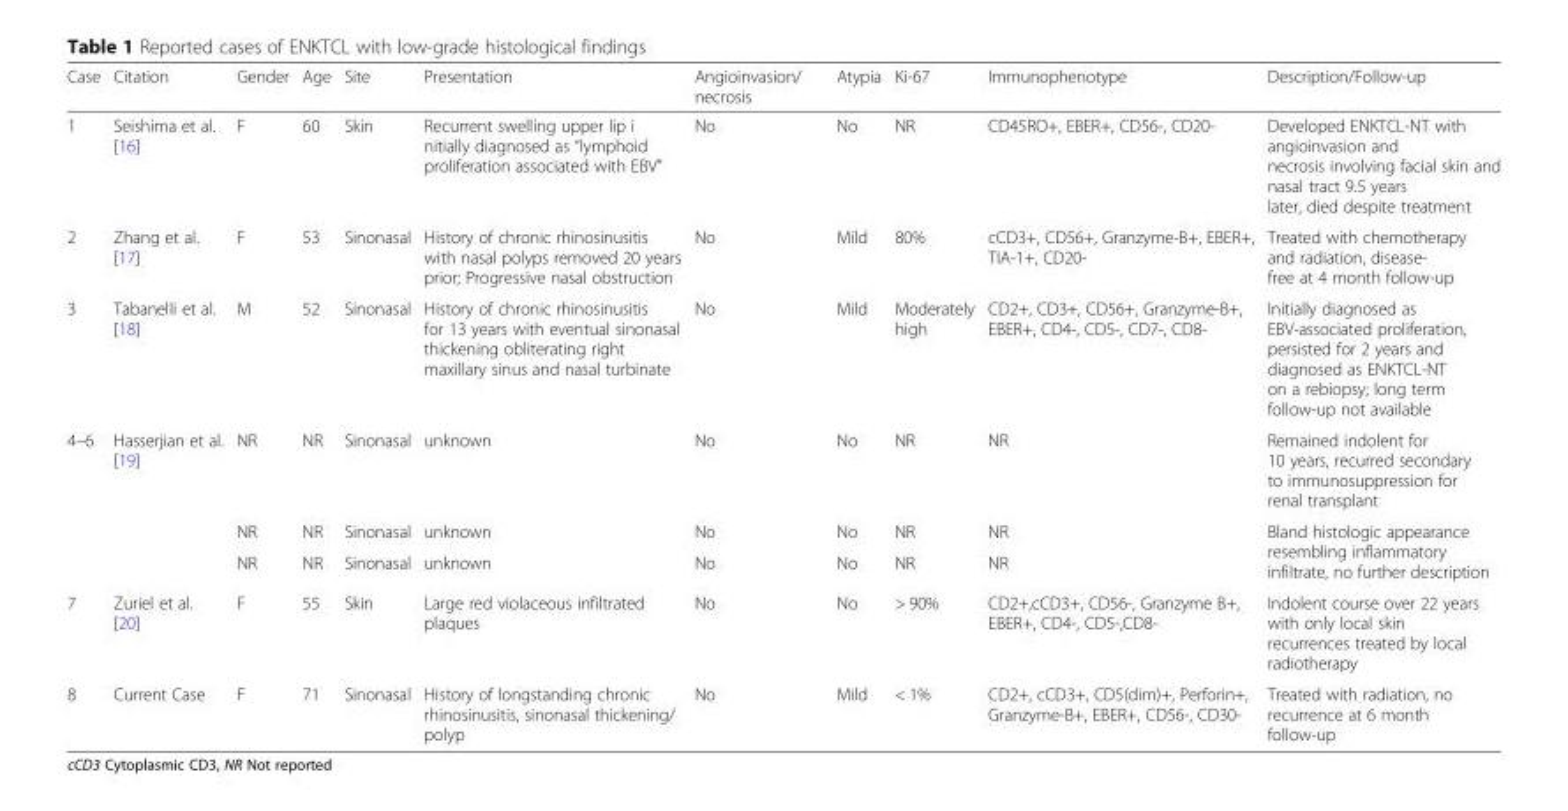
<table><thead><tr><td>Case</td><td>Citation</td><td>Gender</td><td>Age</td><td>Site</td><td>Presentation</td><td>Angioinvasion/ necrosis</td><td>Atypia</td><td>Ki-67</td><td>Immunophenotype</td><td>Description/Follow-up</td></tr></thead><tbody><tr><td>1</td><td>Seishima et al. [16]</td><td>F</td><td>60</td><td>Skin</td><td>Recurrent swelling upper lip i nitially diagnosed as “lymphoid proliferation associated with EBV”</td><td>No</td><td>No</td><td>NR</td><td>CD45RO+, EBER+, CD56-, CD20-</td><td>Developed ENKTCL-NT with angioinvasion and necrosis involving facial skin and nasal tract 9.5 years later, died despite treatment</td></tr><tr><td>2</td><td>Zhang et al. [17]</td><td>F</td><td>53</td><td>Sinonasal</td><td>History of chronic rhinosinusitis with nasal polyps removed 20 years prior; Progressive nasal obstruction</td><td>No</td><td>Mild</td><td>80%</td><td>cCD3+, CD56+, Granzyme-B+, EBER+, TIA-1+, CD20-</td><td>Treated with chemotherapy and radiation, disease- free at 4 month follow-up</td></tr><tr><td>3</td><td>Tabanelli et al. [18]</td><td>M</td><td>52</td><td>Sinonasal</td><td>History of chronic rhinosinusitis for 13 years with eventual sinonasal thickening obliterating right maxillary sinus and nasal turbinate</td><td>No</td><td>Mild</td><td>Moderately high</td><td>CD2+, CD3+, CD56+, Granzyme-B+, EBER+, CD4-, CD5-, CD7-, CD8-</td><td>Initially diagnosed as EBV-associated proliferation, persisted for 2 years and diagnosed as ENKTCL-NT on a rebiopsy; long term follow-up not available</td></tr><tr><td rowspan="3">4–6</td><td rowspan="3">Hasserjian et al. [19]</td><td>NR</td><td>NR</td><td>Sinonasal</td><td>unknown</td><td>No</td><td>No</td><td>NR</td><td>NR</td><td>Remained indolent for 10 years, recurred secondary to immunosuppression for renal transplant</td></tr><tr><td>NR</td><td>NR</td><td>Sinonasal</td><td>unknown</td><td>No</td><td>No</td><td>NR</td><td>NR</td><td rowspan="2">Bland histologic appearance resembling inflammatory infiltrate, no further description</td></tr><tr><td>NR</td><td>NR</td><td>Sinonasal</td><td>unknown</td><td>No</td><td>No</td><td>NR</td><td>NR</td></tr><tr><td>7</td><td>Zuriel et al. [20]</td><td>F</td><td>55</td><td>Skin</td><td>Large red violaceous infiltrated plaques</td><td>No</td><td>No</td><td>&gt; 90%</td><td>CD2+,cCD3+, CD56-, Granzyme B+, EBER+, CD4-, CD5-,CD8-</td><td>Indolent course over 22 years with only local skin recurrences treated by local radiotherapy</td></tr><tr><td>8</td><td>Current Case</td><td>F</td><td>71</td><td>Sinonasal</td><td>History of longstanding chronic rhinosinusitis, sinonasal thickening/ polyp</td><td>No</td><td>Mild</td><td>&lt; 1%</td><td>CD2+, cCD3+, CD5(dim)+, Perforin+, Granzyme-B+, EBER+, CD56-, CD30-</td><td>Treated with radiation, no recurrence at 6 month follow-up</td></tr></tbody></table>